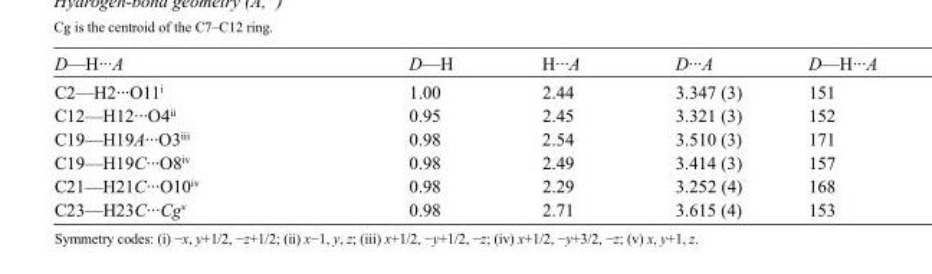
<table><tbody><tr><td>D—H···A</td><td>D—H</td><td>H···A</td><td>D···A</td><td>D—H···A</td></tr><tr><td>C2—H2···O11<sup>i</sup></td><td>1.00</td><td>2.44</td><td>3.347 (3)</td><td>151</td></tr><tr><td>C12—H12···O4<sup>ii</sup></td><td>0.95</td><td>2.45</td><td>3.321 (3)</td><td>152</td></tr><tr><td>C19—H19A···O3<sup>iii</sup></td><td>0.98</td><td>2.54</td><td>3.510 (3)</td><td>171</td></tr><tr><td>C19—H19C···O8<sup>iv</sup></td><td>0.98</td><td>2.49</td><td>3.414 (3)</td><td>157</td></tr><tr><td>C21—H21C···O10<sup>iv</sup></td><td>0.98</td><td>2.29</td><td>3.252 (4)</td><td>168</td></tr><tr><td>C23—H23C···Cg<sup>v</sup></td><td>0.98</td><td>2.71</td><td>3.615 (4)</td><td>153</td></tr></tbody></table>